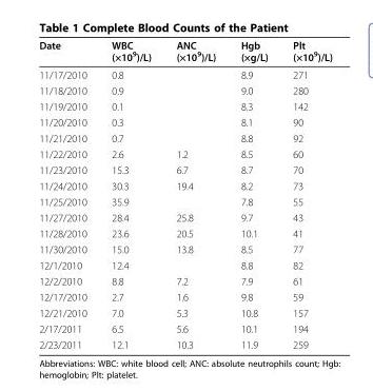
<table><thead><tr><td>Date</td><td>WBC (×10<sup>9</sup>)/L)</td><td>ANC (×10<sup>9</sup>)/L)</td><td>Hgb (×g/L)</td><td>Plt (×10<sup>9</sup>)/L)</td></tr></thead><tbody><tr><td>11/17/2010</td><td>0.8</td><td></td><td>8.9</td><td>271</td></tr><tr><td>11/18/2010</td><td>0.9</td><td></td><td>9.0</td><td>280</td></tr><tr><td>11/19/2010</td><td>0.1</td><td></td><td>8.3</td><td>142</td></tr><tr><td>11/20/2010</td><td>0.3</td><td></td><td>8.1</td><td>90</td></tr><tr><td>11/21/2010</td><td>0.7</td><td></td><td>8.8</td><td>92</td></tr><tr><td>11/22/2010</td><td>2.6</td><td>1.2</td><td>8.5</td><td>60</td></tr><tr><td>11/23/2010</td><td>15.3</td><td>6.7</td><td>8.7</td><td>70</td></tr><tr><td>11/24/2010</td><td>30.3</td><td>19.4</td><td>8.2</td><td>73</td></tr><tr><td>11/25/2010</td><td>35.9</td><td></td><td>7.8</td><td>55</td></tr><tr><td>11/27/2010</td><td>28.4</td><td>25.8</td><td>9.7</td><td>43</td></tr><tr><td>11/28/2010</td><td>23.6</td><td>20.5</td><td>10.1</td><td>41</td></tr><tr><td>11/30/2010</td><td>15.0</td><td>13.8</td><td>8.5</td><td>77</td></tr><tr><td>12/1/2010</td><td>12.4</td><td></td><td>8.8</td><td>82</td></tr><tr><td>12/2/2010</td><td>8.8</td><td>7.2</td><td>7.9</td><td>61</td></tr><tr><td>12/17/2010</td><td>2.7</td><td>1.6</td><td>9.8</td><td>59</td></tr><tr><td>12/21/2010</td><td>7.0</td><td>5.3</td><td>10.8</td><td>157</td></tr><tr><td>2/17/2011</td><td>6.5</td><td>5.6</td><td>10.1</td><td>194</td></tr><tr><td>2/23/2011</td><td>12.1</td><td>10.3</td><td>11.9</td><td>259</td></tr></tbody></table>